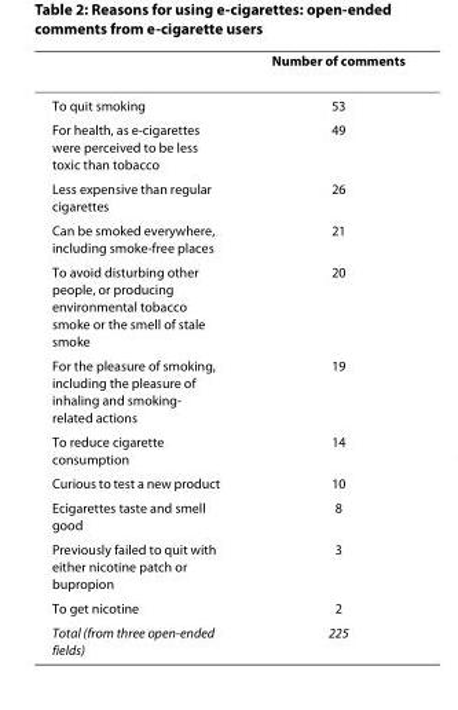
<table><thead><tr><td></td><td>Number of comments</td></tr></thead><tbody><tr><td>To quit smoking</td><td>53</td></tr><tr><td>For health, as e-cigarettes were perceived to be less toxic than tobacco</td><td>49</td></tr><tr><td>Less expensive than regular cigarettes</td><td>26</td></tr><tr><td>Can be smoked everywhere, including smoke-free places</td><td>21</td></tr><tr><td>To avoid disturbing other people, or producing environmental tobacco smoke or the smell of stale smoke</td><td>20</td></tr><tr><td>For the pleasure of smoking, including the pleasure of inhaling and smoking- related actions</td><td>19</td></tr><tr><td>To reduce cigarette consumption</td><td>14</td></tr><tr><td>Curious to test a new product</td><td>10</td></tr><tr><td>Ecigarettes taste and smell good</td><td>8</td></tr><tr><td>Previously failed to quit with either nicotine patch or bupropion</td><td>3</td></tr><tr><td>To get nicotine</td><td>2</td></tr><tr><td>Total (from three open-ended fields)</td><td>225</td></tr></tbody></table>